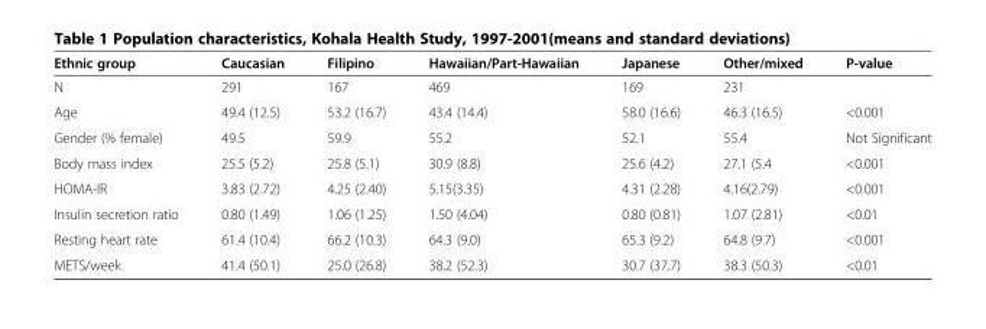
<table><thead><tr><td>Ethnic group</td><td>Caucasian</td><td>Filipino</td><td>Hawaiian/Part-Hawaiian</td><td>Japanese</td><td>Other/mixed</td><td>P-value</td></tr></thead><tbody><tr><td>N</td><td>291</td><td>167</td><td>469</td><td>169</td><td>231</td><td></td></tr><tr><td>Age</td><td>49.4 (12.5)</td><td>53.2 (16.7)</td><td>43.4 (14.4)</td><td>58.0 (16.6)</td><td>46.3 (16.5)</td><td>&lt;0.001</td></tr><tr><td>Gender (% female)</td><td>49.5</td><td>59.9</td><td>55.2</td><td>52.1</td><td>55.4</td><td>Not Significant</td></tr><tr><td>Body mass index</td><td>25.5 (5.2)</td><td>25.8 (5.1)</td><td>30.9 (8.8)</td><td>25.6 (4.2)</td><td>27.1 (5.4</td><td>&lt;0.001</td></tr><tr><td>HOMA-IR</td><td>3.83 (2.72)</td><td>4.25 (2.40)</td><td>5.15(3.35)</td><td>4.31 (2.28)</td><td>4.16(2.79)</td><td>&lt;0.001</td></tr><tr><td>Insulin secretion ratio</td><td>0.80 (1.49)</td><td>1.06 (1.25)</td><td>1.50 (4.04)</td><td>0.80 (0.81)</td><td>1.07 (2.81)</td><td>&lt;0.01</td></tr><tr><td>Resting heart rate</td><td>61.4 (10.4)</td><td>66.2 (10.3)</td><td>64.3 (9.0)</td><td>65.3 (9.2)</td><td>64.8 (9.7)</td><td>&lt;0.001</td></tr><tr><td>METS/week</td><td>41.4 (50.1)</td><td>25.0 (26.8)</td><td>38.2 (52.3)</td><td>30.7 (37.7)</td><td>38.3 (50.3)</td><td>&lt;0.01</td></tr></tbody></table>